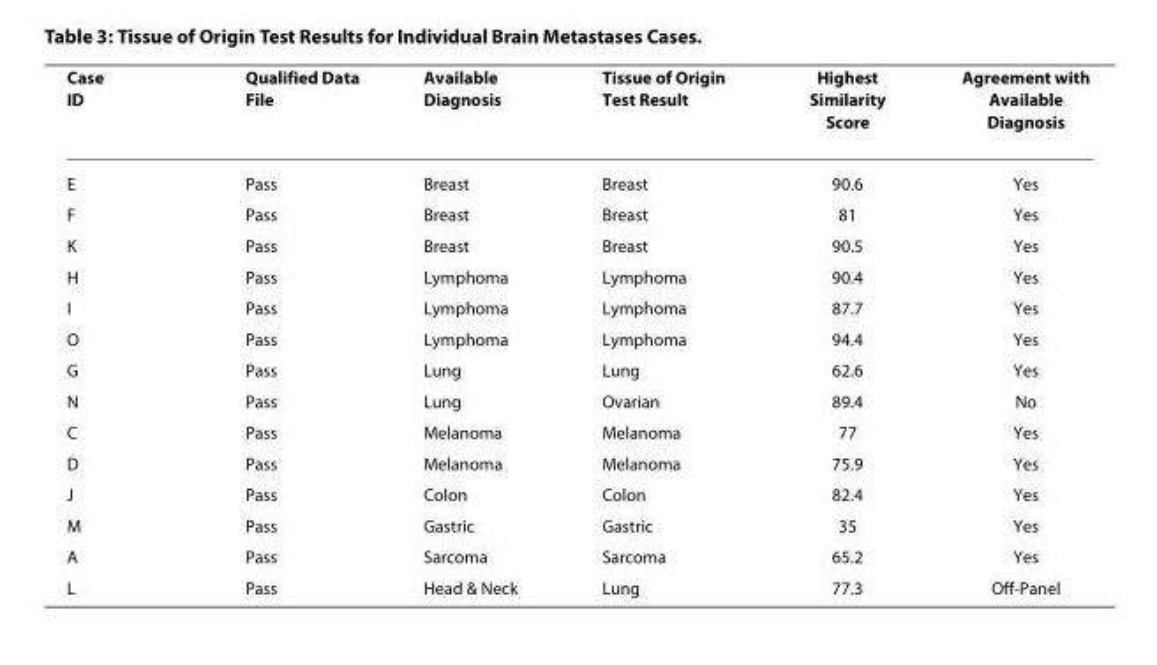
<table><thead><tr><td>Case ID</td><td>Qualified Data File</td><td>Available Diagnosis</td><td>Tissue of Origin Test Result</td><td>Highest Similarity Score</td><td>Agreement with Available Diagnosis</td></tr></thead><tbody><tr><td>E</td><td>Pass</td><td>Breast</td><td>Breast</td><td>90.6</td><td>Yes</td></tr><tr><td>F</td><td>Pass</td><td>Breast</td><td>Breast</td><td>81</td><td>Yes</td></tr><tr><td>K</td><td>Pass</td><td>Breast</td><td>Breast</td><td>90.5</td><td>Yes</td></tr><tr><td>H</td><td>Pass</td><td>Lymphoma</td><td>Lymphoma</td><td>90.4</td><td>Yes</td></tr><tr><td>I</td><td>Pass</td><td>Lymphoma</td><td>Lymphoma</td><td>87.7</td><td>Yes</td></tr><tr><td>O</td><td>Pass</td><td>Lymphoma</td><td>Lymphoma</td><td>94.4</td><td>Yes</td></tr><tr><td>G</td><td>Pass</td><td>Lung</td><td>Lung</td><td>62.6</td><td>Yes</td></tr><tr><td>N</td><td>Pass</td><td>Lung</td><td>Ovarian</td><td>89.4</td><td>No</td></tr><tr><td>C</td><td>Pass</td><td>Melanoma</td><td>Melanoma</td><td>77</td><td>Yes</td></tr><tr><td>D</td><td>Pass</td><td>Melanoma</td><td>Melanoma</td><td>75.9</td><td>Yes</td></tr><tr><td>J</td><td>Pass</td><td>Colon</td><td>Colon</td><td>82.4</td><td>Yes</td></tr><tr><td>M</td><td>Pass</td><td>Gastric</td><td>Gastric</td><td>35</td><td>Yes</td></tr><tr><td>A</td><td>Pass</td><td>Sarcoma</td><td>Sarcoma</td><td>65.2</td><td>Yes</td></tr><tr><td>L</td><td>Pass</td><td>Head &amp; Neck</td><td>Lung</td><td>77.3</td><td>Off-Panel</td></tr></tbody></table>